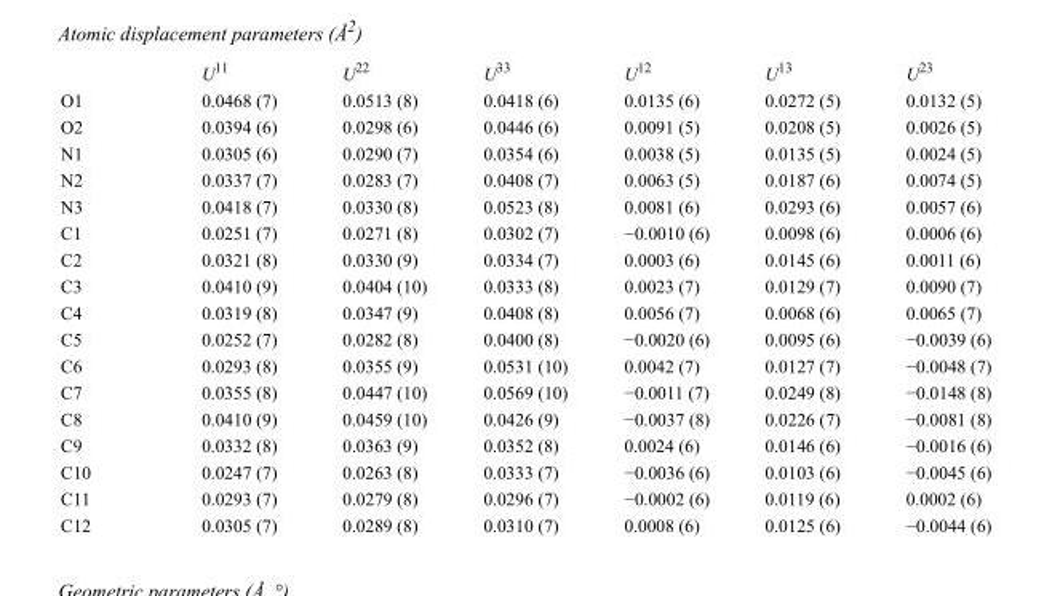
<table><thead><tr><td></td><td>U<sup>11</sup></td><td>U<sup>22</sup></td><td>U<sup>33</sup></td><td>U<sup>12</sup></td><td>U<sup>13</sup></td><td>U<sup>23</sup></td></tr></thead><tbody><tr><td>O1</td><td>0.0468 (7)</td><td>0.0513 (8)</td><td>0.0418 (6)</td><td>0.0135 (6)</td><td>0.0272 (5)</td><td>0.0132 (5)</td></tr><tr><td>O2</td><td>0.0394 (6)</td><td>0.0298 (6)</td><td>0.0446 (6)</td><td>0.0091 (5)</td><td>0.0208 (5)</td><td>0.0026 (5)</td></tr><tr><td>N1</td><td>0.0305 (6)</td><td>0.0290 (7)</td><td>0.0354 (6)</td><td>0.0038 (5)</td><td>0.0135 (5)</td><td>0.0024 (5)</td></tr><tr><td>N2</td><td>0.0337 (7)</td><td>0.0283 (7)</td><td>0.0408 (7)</td><td>0.0063 (5)</td><td>0.0187 (6)</td><td>0.0074 (5)</td></tr><tr><td>N3</td><td>0.0418 (7)</td><td>0.0330 (8)</td><td>0.0523 (8)</td><td>0.0081 (6)</td><td>0.0293 (6)</td><td>0.0057 (6)</td></tr><tr><td>C1</td><td>0.0251 (7)</td><td>0.0271 (8)</td><td>0.0302 (7)</td><td>−0.0010 (6)</td><td>0.0098 (6)</td><td>0.0006 (6)</td></tr><tr><td>C2</td><td>0.0321 (8)</td><td>0.0330 (9)</td><td>0.0334 (7)</td><td>0.0003 (6)</td><td>0.0145 (6)</td><td>0.0011 (6)</td></tr><tr><td>C3</td><td>0.0410 (9)</td><td>0.0404 (10)</td><td>0.0333 (8)</td><td>0.0023 (7)</td><td>0.0129 (7)</td><td>0.0090 (7)</td></tr><tr><td>C4</td><td>0.0319 (8)</td><td>0.0347 (9)</td><td>0.0408 (8)</td><td>0.0056 (7)</td><td>0.0068 (6)</td><td>0.0065 (7)</td></tr><tr><td>C5</td><td>0.0252 (7)</td><td>0.0282 (8)</td><td>0.0400 (8)</td><td>−0.0020 (6)</td><td>0.0095 (6)</td><td>−0.0039 (6)</td></tr><tr><td>C6</td><td>0.0293 (8)</td><td>0.0355 (9)</td><td>0.0531 (10)</td><td>0.0042 (7)</td><td>0.0127 (7)</td><td>−0.0048 (7)</td></tr><tr><td>C7</td><td>0.0355 (8)</td><td>0.0447 (10)</td><td>0.0569 (10)</td><td>−0.0011 (7)</td><td>0.0249 (8)</td><td>−0.0148 (8)</td></tr><tr><td>C8</td><td>0.0410 (9)</td><td>0.0459 (10)</td><td>0.0426 (9)</td><td>−0.0037 (8)</td><td>0.0226 (7)</td><td>−0.0081 (8)</td></tr><tr><td>C9</td><td>0.0332 (8)</td><td>0.0363 (9)</td><td>0.0352 (8)</td><td>0.0024 (6)</td><td>0.0146 (6)</td><td>−0.0016 (6)</td></tr><tr><td>C10</td><td>0.0247 (7)</td><td>0.0263 (8)</td><td>0.0333 (7)</td><td>−0.0036 (6)</td><td>0.0103 (6)</td><td>−0.0045 (6)</td></tr><tr><td>C11</td><td>0.0293 (7)</td><td>0.0279 (8)</td><td>0.0296 (7)</td><td>−0.0002 (6)</td><td>0.0119 (6)</td><td>0.0002 (6)</td></tr><tr><td>C12</td><td>0.0305 (7)</td><td>0.0289 (8)</td><td>0.0310 (7)</td><td>0.0008 (6)</td><td>0.0125 (6)</td><td>−0.0044 (6)</td></tr></tbody></table>